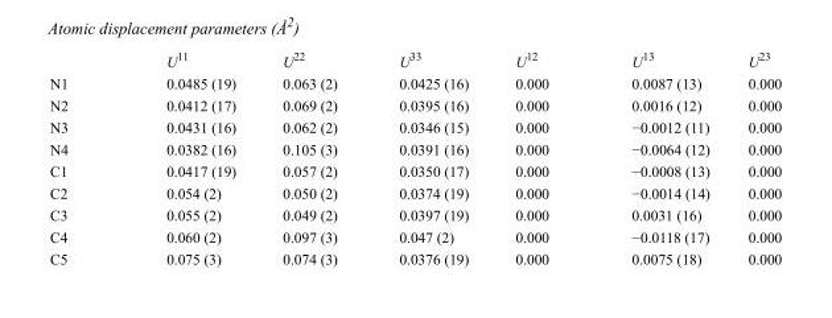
<table><thead><tr><td></td><td>U<sup>11</sup></td><td>U<sup>22</sup></td><td>U<sup>33</sup></td><td>U<sup>12</sup></td><td>U<sup>13</sup></td><td>U<sup>23</sup></td></tr></thead><tbody><tr><td>N1</td><td>0.0485 (19)</td><td>0.063 (2)</td><td>0.0425 (16)</td><td>0.000</td><td>0.0087 (13)</td><td>0.000</td></tr><tr><td>N2</td><td>0.0412 (17)</td><td>0.069 (2)</td><td>0.0395 (16)</td><td>0.000</td><td>0.0016 (12)</td><td>0.000</td></tr><tr><td>N3</td><td>0.0431 (16)</td><td>0.062 (2)</td><td>0.0346 (15)</td><td>0.000</td><td>−0.0012 (11)</td><td>0.000</td></tr><tr><td>N4</td><td>0.0382 (16)</td><td>0.105 (3)</td><td>0.0391 (16)</td><td>0.000</td><td>−0.0064 (12)</td><td>0.000</td></tr><tr><td>C1</td><td>0.0417 (19)</td><td>0.057 (2)</td><td>0.0350 (17)</td><td>0.000</td><td>−0.0008 (13)</td><td>0.000</td></tr><tr><td>C2</td><td>0.054 (2)</td><td>0.050 (2)</td><td>0.0374 (19)</td><td>0.000</td><td>−0.0014 (14)</td><td>0.000</td></tr><tr><td>C3</td><td>0.055 (2)</td><td>0.049 (2)</td><td>0.0397 (19)</td><td>0.000</td><td>0.0031 (16)</td><td>0.000</td></tr><tr><td>C4</td><td>0.060 (2)</td><td>0.097 (3)</td><td>0.047 (2)</td><td>0.000</td><td>−0.0118 (17)</td><td>0.000</td></tr><tr><td>C5</td><td>0.075 (3)</td><td>0.074 (3)</td><td>0.0376 (19)</td><td>0.000</td><td>0.0075 (18)</td><td>0.000</td></tr></tbody></table>